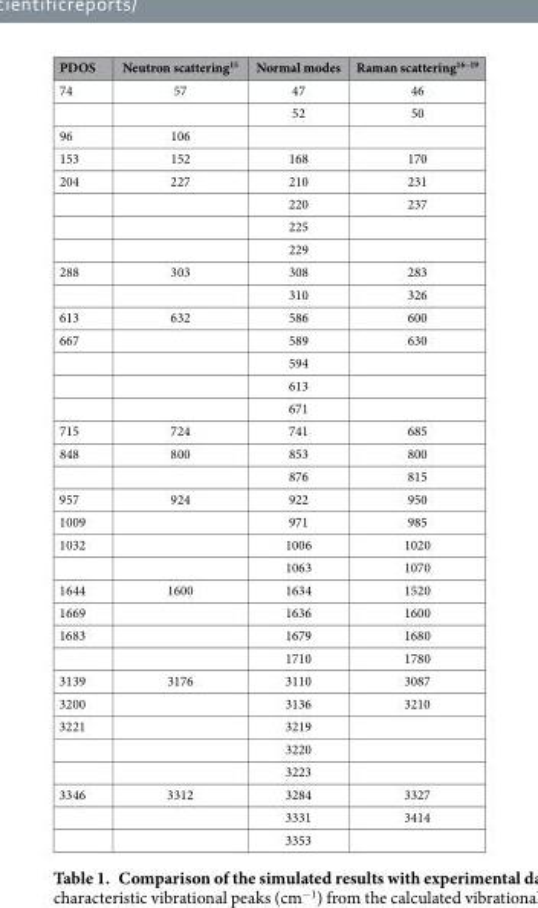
<table><thead><tr><td>PDOS</td><td>Neutron scattering<sup>15</sup></td><td>Normal modes</td><td>Raman scattering16–19</td></tr></thead><tbody><tr><td rowspan="2">74</td><td>57</td><td>47</td><td>46</td></tr><tr><td></td><td>52</td><td>50</td></tr><tr><td>96</td><td>106</td><td></td><td></td></tr><tr><td>153</td><td>152</td><td>168</td><td>170</td></tr><tr><td rowspan="4">204</td><td>227</td><td>210</td><td>231</td></tr><tr><td></td><td>220</td><td>237</td></tr><tr><td></td><td>225</td><td></td></tr><tr><td></td><td>229</td><td></td></tr><tr><td rowspan="2">288</td><td>303</td><td>308</td><td>283</td></tr><tr><td></td><td>310</td><td>326</td></tr><tr><td>613</td><td>632</td><td>586</td><td>600</td></tr><tr><td rowspan="4">667</td><td></td><td>589</td><td>630</td></tr><tr><td></td><td>594</td><td></td></tr><tr><td></td><td>613</td><td></td></tr><tr><td></td><td>671</td><td></td></tr><tr><td>715</td><td>724</td><td>741</td><td>685</td></tr><tr><td rowspan="2">848</td><td>800</td><td>853</td><td>800</td></tr><tr><td></td><td>876</td><td>815</td></tr><tr><td>957</td><td>924</td><td>922</td><td>950</td></tr><tr><td>1009</td><td></td><td>971</td><td>985</td></tr><tr><td rowspan="2">1032</td><td></td><td>1006</td><td>1020</td></tr><tr><td></td><td>1063</td><td>1070</td></tr><tr><td>1644</td><td>1600</td><td>1634</td><td>1520</td></tr><tr><td>1669</td><td></td><td>1636</td><td>1600</td></tr><tr><td rowspan="2">1683</td><td></td><td>1679</td><td>1680</td></tr><tr><td></td><td>1710</td><td>1780</td></tr><tr><td>3139</td><td>3176</td><td>3110</td><td>3087</td></tr><tr><td>3200</td><td></td><td>3136</td><td>3210</td></tr><tr><td rowspan="3">3221</td><td></td><td>3219</td><td></td></tr><tr><td></td><td>3220</td><td></td></tr><tr><td></td><td>3223</td><td></td></tr><tr><td rowspan="3">3346</td><td>3312</td><td>3284</td><td>3327</td></tr><tr><td></td><td>3331</td><td>3414</td></tr><tr><td></td><td>3353</td><td></td></tr></tbody></table>